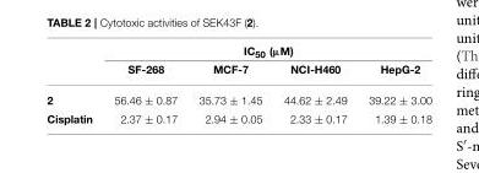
<table><thead><tr><td rowspan="2"></td><td colspan="4">IC<sub>50</sub> (µM)</td></tr><tr><td>SF-268</td><td>MCF-7</td><td>NCI-H460</td><td>HepG-2</td></tr></thead><tbody><tr><td>2</td><td>56.46 ± 0.87</td><td>35.73 ± 1.45</td><td>44.62 ± 2.49</td><td>39.22 ± 3.00</td></tr><tr><td>Cisplatin</td><td>2.37 ± 0.17</td><td>2.94 ± 0.05</td><td>2.33 ± 0.17</td><td>1.39 ± 0.18</td></tr></tbody></table>